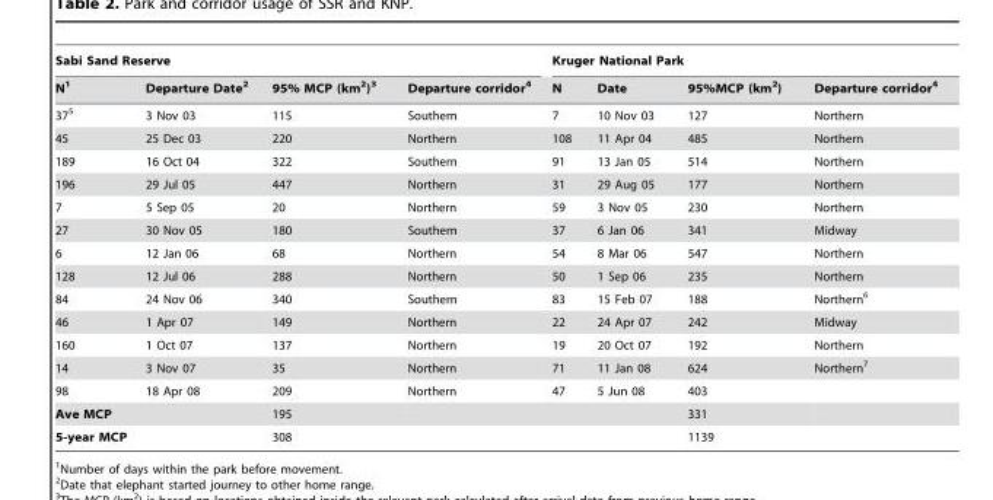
<table><thead><tr><td colspan="4">Sabi Sand Reserve</td><td colspan="4">Kruger National Park</td></tr><tr><td>N<sup>1</sup></td><td>Departure Date<sup>2</sup></td><td>95% MCP (km<sup>2</sup>)<sup>3</sup></td><td>Departure corridor<sup>4</sup></td><td>N</td><td>Date</td><td>95%MCP (km<sup>2</sup>)</td><td>Departure corridor<sup>4</sup></td></tr></thead><tbody><tr><td>37<sup>5</sup></td><td>3 Nov 03</td><td>115</td><td>Southern</td><td>7</td><td>10 Nov 03</td><td>127</td><td>Northern</td></tr><tr><td>45</td><td>25 Dec 03</td><td>220</td><td>Northern</td><td>108</td><td>11 Apr 04</td><td>485</td><td>Northern</td></tr><tr><td>189</td><td>16 Oct 04</td><td>322</td><td>Southern</td><td>91</td><td>13 Jan 05</td><td>514</td><td>Northern</td></tr><tr><td>196</td><td>29 Jul 05</td><td>447</td><td>Northern</td><td>31</td><td>29 Aug 05</td><td>177</td><td>Northern</td></tr><tr><td>7</td><td>5 Sep 05</td><td>20</td><td>Northern</td><td>59</td><td>3 Nov 05</td><td>230</td><td>Northern</td></tr><tr><td>27</td><td>30 Nov 05</td><td>180</td><td>Southern</td><td>37</td><td>6 Jan 06</td><td>341</td><td>Midway</td></tr><tr><td>6</td><td>12 Jan 06</td><td>68</td><td>Northern</td><td>54</td><td>8 Mar 06</td><td>547</td><td>Northern</td></tr><tr><td>128</td><td>12 Jul 06</td><td>288</td><td>Northern</td><td>50</td><td>1 Sep 06</td><td>235</td><td>Northern</td></tr><tr><td>84</td><td>24 Nov 06</td><td>340</td><td>Southern</td><td>83</td><td>15 Feb 07</td><td>188</td><td>Northern<sup>6</sup></td></tr><tr><td>46</td><td>1 Apr 07</td><td>149</td><td>Northern</td><td>22</td><td>24 Apr 07</td><td>242</td><td>Midway</td></tr><tr><td>160</td><td>1 Oct 07</td><td>137</td><td>Northern</td><td>19</td><td>20 Oct 07</td><td>192</td><td>Northern</td></tr><tr><td>14</td><td>3 Nov 07</td><td>35</td><td>Northern</td><td>71</td><td>11 Jan 08</td><td>624</td><td>Northern<sup>7</sup></td></tr><tr><td>98</td><td>18 Apr 08</td><td>209</td><td>Northern</td><td>47</td><td>5 Jun 08</td><td>403</td><td></td></tr><tr><td>Ave MCP</td><td></td><td>195</td><td></td><td></td><td></td><td>331</td><td></td></tr><tr><td>5-year MCP</td><td></td><td>308</td><td></td><td></td><td></td><td>1139</td><td></td></tr></tbody></table>